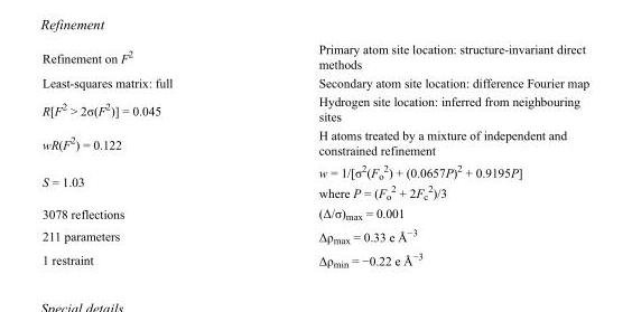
<table><tbody><tr><td>Refinement on F<sup>2</sup></td><td>Primary atom site location: structure-invariant direct methods</td></tr><tr><td>Least-squares matrix: full</td><td>Secondary atom site location: difference Fourier map</td></tr><tr><td>R[F<sup>2</sup> &gt; 2σ(F<sup>2</sup>)] = 0.045</td><td>Hydrogen site location: inferred from neighbouring sites</td></tr><tr><td>wR(F<sup>2</sup>) = 0.122</td><td>H atoms treated by a mixture of independent and constrained refinement</td></tr><tr><td>S = 1.03</td><td>w = 1/[σ<sup>2</sup>(F<sub>o</sub> <sup>2</sup>) + (0.0657P)<sup>2</sup> + 0.9195P] where P = (F<sub>o</sub> <sup>2</sup> + 2F<sub>c</sub> <sup>2</sup>)/3</td></tr><tr><td>3078 reflections</td><td>(Δ/σ)<sub>max</sub> = 0.001</td></tr><tr><td>211 parameters</td><td>Δρ<sub>max</sub> = 0.33 e Å<sup>−3</sup></td></tr><tr><td>1 restraint</td><td>Δρ<sub>min</sub> = −0.22 e Å<sup>−3</sup></td></tr></tbody></table>